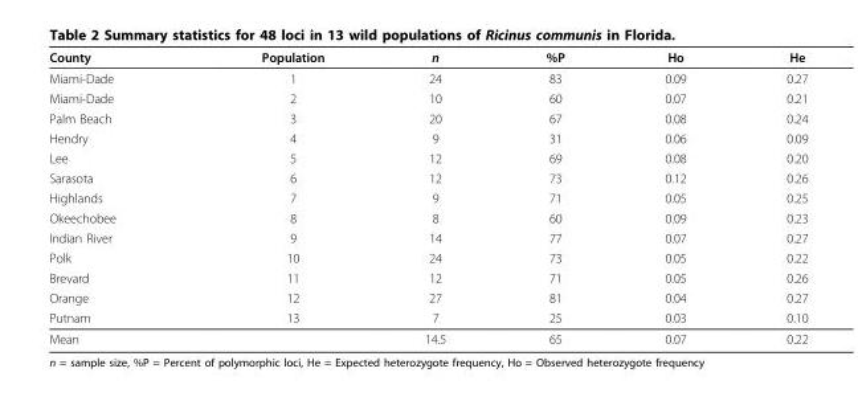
<table><tbody><tr><td>County</td><td>Population</td><td>n</td><td>%P</td><td>Ho</td><td>He</td></tr><tr><td>Miami-Dade</td><td>1</td><td>24</td><td>83</td><td>0.09</td><td>0.27</td></tr><tr><td>Miami-Dade</td><td>2</td><td>10</td><td>60</td><td>0.07</td><td>0.21</td></tr><tr><td>Palm Beach</td><td>3</td><td>20</td><td>67</td><td>0.08</td><td>0.24</td></tr><tr><td>Hendry</td><td>4</td><td>9</td><td>31</td><td>0.06</td><td>0.09</td></tr><tr><td>Lee</td><td>5</td><td>12</td><td>69</td><td>0.08</td><td>0.20</td></tr><tr><td>Sarasota</td><td>6</td><td>12</td><td>73</td><td>0.12</td><td>0.26</td></tr><tr><td>Highlands</td><td>7</td><td>9</td><td>71</td><td>0.05</td><td>0.25</td></tr><tr><td>Okeechobee</td><td>8</td><td>8</td><td>60</td><td>0.09</td><td>0.23</td></tr><tr><td>Indian River</td><td>9</td><td>14</td><td>77</td><td>0.07</td><td>0.27</td></tr><tr><td>Polk</td><td>10</td><td>24</td><td>73</td><td>0.05</td><td>0.22</td></tr><tr><td>Brevard</td><td>11</td><td>12</td><td>71</td><td>0.05</td><td>0.26</td></tr><tr><td>Orange</td><td>12</td><td>27</td><td>81</td><td>0.04</td><td>0.27</td></tr><tr><td>Putnam</td><td>13</td><td>7</td><td>25</td><td>0.03</td><td>0.10</td></tr><tr><td>Mean</td><td></td><td>14.5</td><td>65</td><td>0.07</td><td>0.22</td></tr></tbody></table>